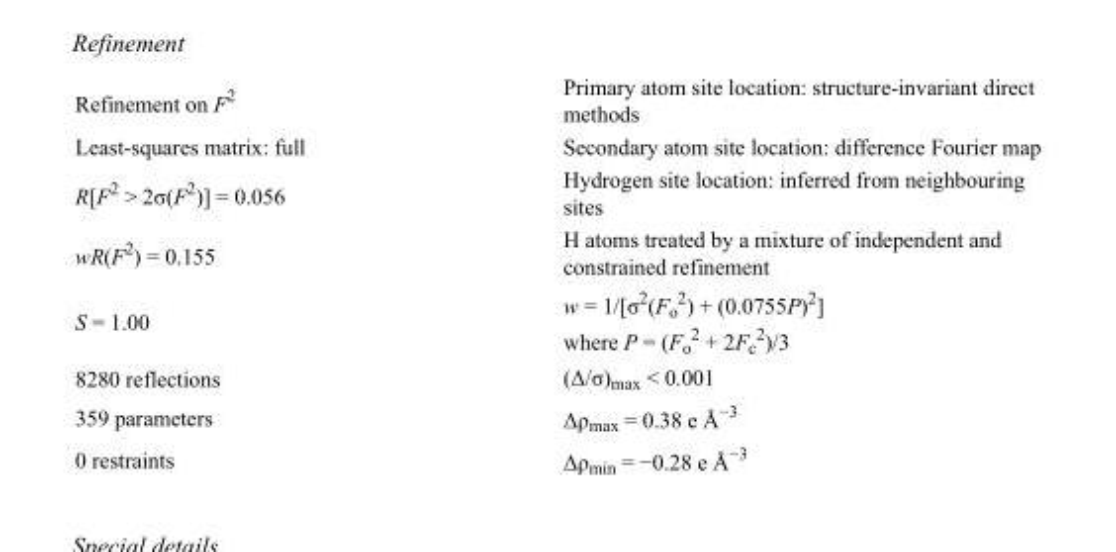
<table><tbody><tr><td>Refinement on F<sup>2</sup></td><td>Primary atom site location: structure-invariant direct methods</td></tr><tr><td>Least-squares matrix: full</td><td>Secondary atom site location: difference Fourier map</td></tr><tr><td>R[F<sup>2</sup> &gt; 2σ(F<sup>2</sup>)] = 0.056</td><td>Hydrogen site location: inferred from neighbouring sites</td></tr><tr><td>wR(F<sup>2</sup>) = 0.155</td><td>H atoms treated by a mixture of independent and constrained refinement</td></tr><tr><td>S = 1.00</td><td>w = 1/[σ<sup>2</sup>(F<sub>o</sub> <sup>2</sup>) + (0.0755P)<sup>2</sup>] where P = (F<sub>o</sub> <sup>2</sup> + 2F<sub>c</sub> <sup>2</sup>)/3</td></tr><tr><td>8280 reflections</td><td>(Δ/σ)<sub>max</sub> &lt; 0.001</td></tr><tr><td>359 parameters</td><td>Δρ<sub>max</sub> = 0.38 e Å<sup>−3</sup></td></tr><tr><td>0 restraints</td><td>Δρ<sub>min</sub> = −0.28 e Å<sup>−3</sup></td></tr></tbody></table>